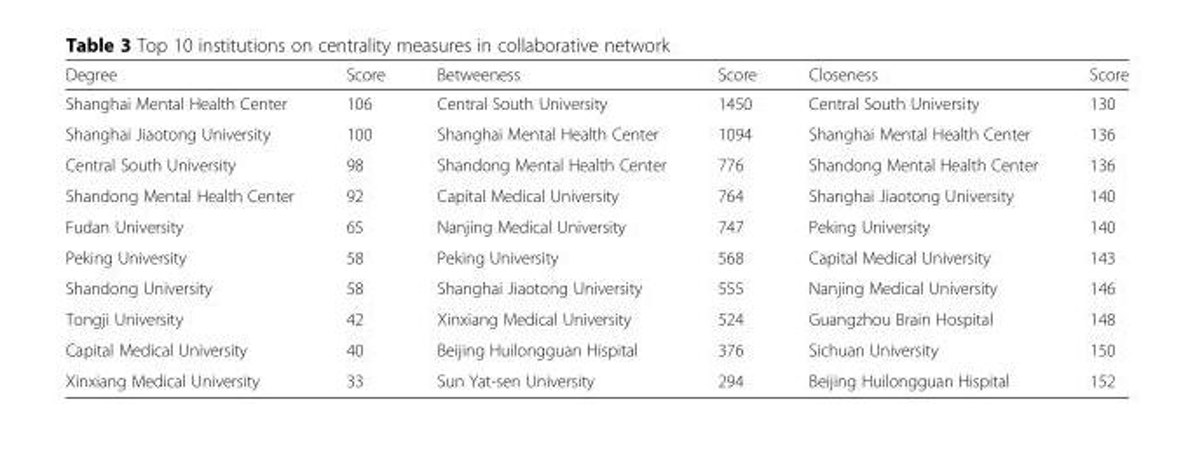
<table><thead><tr><td>Degree</td><td>Score</td><td>Betweeness</td><td>Score</td><td>Closeness</td><td>Score</td></tr></thead><tbody><tr><td>Shanghai Mental Health Center</td><td>106</td><td>Central South University</td><td>1450</td><td>Central South University</td><td>130</td></tr><tr><td>Shanghai Jiaotong University</td><td>100</td><td>Shanghai Mental Health Center</td><td>1094</td><td>Shanghai Mental Health Center</td><td>136</td></tr><tr><td>Central South University</td><td>98</td><td>Shandong Mental Health Center</td><td>776</td><td>Shandong Mental Health Center</td><td>136</td></tr><tr><td>Shandong Mental Health Center</td><td>92</td><td>Capital Medical University</td><td>764</td><td>Shanghai Jiaotong University</td><td>140</td></tr><tr><td>Fudan University</td><td>65</td><td>Nanjing Medical University</td><td>747</td><td>Peking University</td><td>140</td></tr><tr><td>Peking University</td><td>58</td><td>Peking University</td><td>568</td><td>Capital Medical University</td><td>143</td></tr><tr><td>Shandong University</td><td>58</td><td>Shanghai Jiaotong University</td><td>555</td><td>Nanjing Medical University</td><td>146</td></tr><tr><td>Tongji University</td><td>42</td><td>Xinxiang Medical University</td><td>524</td><td>Guangzhou Brain Hospital</td><td>148</td></tr><tr><td>Capital Medical University</td><td>40</td><td>Beijing Huilongguan Hispital</td><td>376</td><td>Sichuan University</td><td>150</td></tr><tr><td>Xinxiang Medical University</td><td>33</td><td>Sun Yat-sen University</td><td>294</td><td>Beijing Huilongguan Hispital</td><td>152</td></tr></tbody></table>